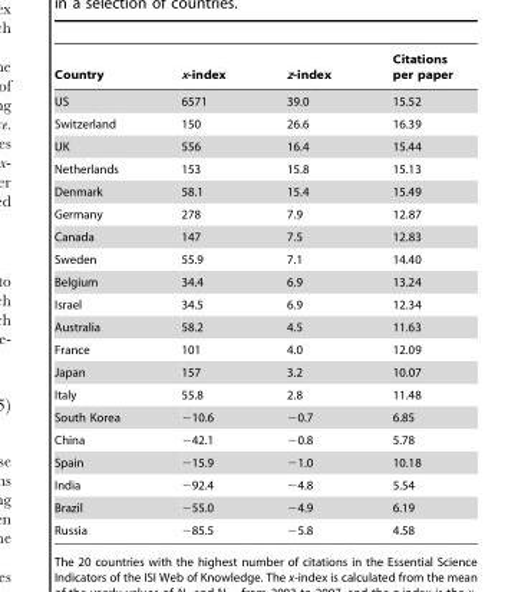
<table><thead><tr><td>Country</td><td>x-index</td><td>z-index</td><td>Citations per paper</td></tr></thead><tbody><tr><td>US</td><td>6571</td><td>39.0</td><td>15.52</td></tr><tr><td>Switzerland</td><td>150</td><td>26.6</td><td>16.39</td></tr><tr><td>UK</td><td>556</td><td>16.4</td><td>15.44</td></tr><tr><td>Netherlands</td><td>153</td><td>15.8</td><td>15.13</td></tr><tr><td>Denmark</td><td>58.1</td><td>15.4</td><td>15.49</td></tr><tr><td>Germany</td><td>278</td><td>7.9</td><td>12.87</td></tr><tr><td>Canada</td><td>147</td><td>7.5</td><td>12.83</td></tr><tr><td>Sweden</td><td>55.9</td><td>7.1</td><td>14.40</td></tr><tr><td>Belgium</td><td>34.4</td><td>6.9</td><td>13.24</td></tr><tr><td>Israel</td><td>34.5</td><td>6.9</td><td>12.34</td></tr><tr><td>Australia</td><td>58.2</td><td>4.5</td><td>11.63</td></tr><tr><td>France</td><td>101</td><td>4.0</td><td>12.09</td></tr><tr><td>Japan</td><td>157</td><td>3.2</td><td>10.07</td></tr><tr><td>Italy</td><td>55.8</td><td>2.8</td><td>11.48</td></tr><tr><td>South Korea</td><td>−10.6</td><td>−0.7</td><td>6.85</td></tr><tr><td>China</td><td>−42.1</td><td>−0.8</td><td>5.78</td></tr><tr><td>Spain</td><td>−15.9</td><td>−1.0</td><td>10.18</td></tr><tr><td>India</td><td>−92.4</td><td>−4.8</td><td>5.54</td></tr><tr><td>Brazil</td><td>−55.0</td><td>−4.9</td><td>6.19</td></tr><tr><td>Russia</td><td>−85.5</td><td>−5.8</td><td>4.58</td></tr></tbody></table>